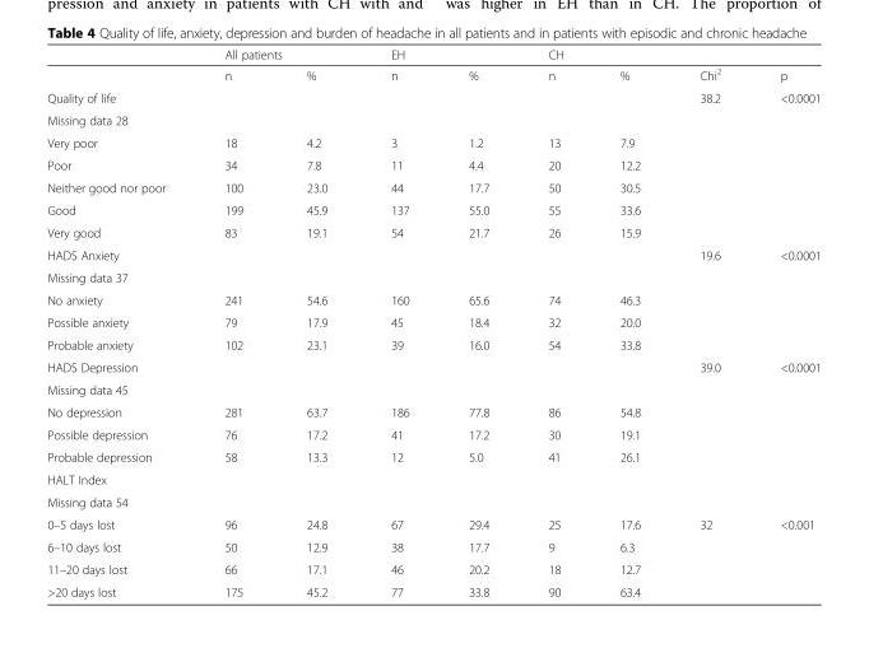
<table><thead><tr><td rowspan="2"></td><td colspan="2">All patients</td><td colspan="2">EH</td><td colspan="2">CH</td><td rowspan="2">Chi<sup>2</sup></td><td rowspan="2">p</td></tr><tr><td>n</td><td>%</td><td>n</td><td>%</td><td>n</td><td>%</td></tr></thead><tbody><tr><td>Quality of life</td><td colspan="2"></td><td colspan="2"></td><td colspan="2"></td><td>38.2</td><td>&lt;0.0001</td></tr><tr><td colspan="9">Missing data 28</td></tr><tr><td>Very poor</td><td>18</td><td>4.2</td><td>3</td><td>1.2</td><td>13</td><td>7.9</td><td></td><td></td></tr><tr><td>Poor</td><td>34</td><td>7.8</td><td>11</td><td>4.4</td><td>20</td><td>12.2</td><td></td><td></td></tr><tr><td>Neither good nor poor</td><td>100</td><td>23.0</td><td>44</td><td>17.7</td><td>50</td><td>30.5</td><td></td><td></td></tr><tr><td>Good</td><td>199</td><td>45.9</td><td>137</td><td>55.0</td><td>55</td><td>33.6</td><td></td><td></td></tr><tr><td>Very good</td><td>83</td><td>19.1</td><td>54</td><td>21.7</td><td>26</td><td>15.9</td><td></td><td></td></tr><tr><td>HADS Anxiety</td><td colspan="2"></td><td colspan="2"></td><td colspan="2"></td><td>19.6</td><td>&lt;0.0001</td></tr><tr><td colspan="9">Missing data 37</td></tr><tr><td>No anxiety</td><td>241</td><td>54.6</td><td>160</td><td>65.6</td><td>74</td><td>46.3</td><td></td><td></td></tr><tr><td>Possible anxiety</td><td>79</td><td>17.9</td><td>45</td><td>18.4</td><td>32</td><td>20.0</td><td></td><td></td></tr><tr><td>Probable anxiety</td><td>102</td><td>23.1</td><td>39</td><td>16.0</td><td>54</td><td>33.8</td><td></td><td></td></tr><tr><td>HADS Depression</td><td colspan="2"></td><td colspan="2"></td><td colspan="2"></td><td>39.0</td><td>&lt;0.0001</td></tr><tr><td colspan="9">Missing data 45</td></tr><tr><td>No depression</td><td>281</td><td>63.7</td><td>186</td><td>77.8</td><td>86</td><td>54.8</td><td></td><td></td></tr><tr><td>Possible depression</td><td>76</td><td>17.2</td><td>41</td><td>17.2</td><td>30</td><td>19.1</td><td></td><td></td></tr><tr><td>Probable depression</td><td>58</td><td>13.3</td><td>12</td><td>5.0</td><td>41</td><td>26.1</td><td></td><td></td></tr><tr><td>HALT Index</td><td rowspan="2"></td><td rowspan="2"></td><td rowspan="2"></td><td rowspan="2"></td><td rowspan="2"></td><td rowspan="2"></td><td rowspan="2"></td><td rowspan="2"></td></tr><tr><td>Missing data 54</td></tr><tr><td>0–5 days lost</td><td>96</td><td>24.8</td><td>67</td><td>29.4</td><td>25</td><td>17.6</td><td>32</td><td>&lt;0.001</td></tr><tr><td>6–10 days lost</td><td>50</td><td>12.9</td><td>38</td><td>17.7</td><td>9</td><td>6.3</td><td></td><td></td></tr><tr><td>11–20 days lost</td><td>66</td><td>17.1</td><td>46</td><td>20.2</td><td>18</td><td>12.7</td><td></td><td></td></tr><tr><td>&gt;20 days lost</td><td>175</td><td>45.2</td><td>77</td><td>33.8</td><td>90</td><td>63.4</td><td></td><td></td></tr></tbody></table>